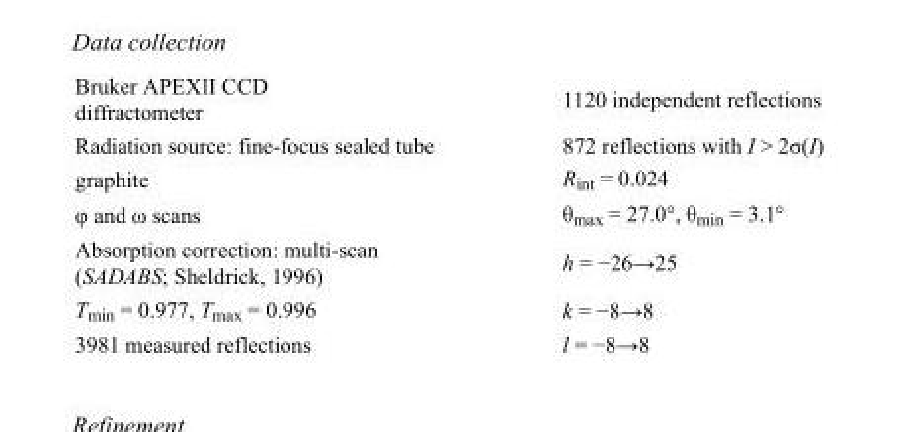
<table><tbody><tr><td>Bruker APEXII CCD diffractometer</td><td>1120 independent reflections</td></tr><tr><td>Radiation source: fine-focus sealed tube</td><td>872 reflections with I &gt; 2σ(I)</td></tr><tr><td>graphite</td><td>R<sub>int</sub> = 0.024</td></tr><tr><td>φ and ω scans</td><td>θ<sub>max</sub> = 27.0°, θ<sub>min</sub> = 3.1°</td></tr><tr><td>Absorption correction: multi-scan (SADABS; Sheldrick, 1996)</td><td>h = −26→25</td></tr><tr><td>T<sub>min</sub> = 0.977, T<sub>max</sub> = 0.996</td><td>k = −8→8</td></tr><tr><td>3981 measured reflections</td><td>l = −8→8</td></tr></tbody></table>